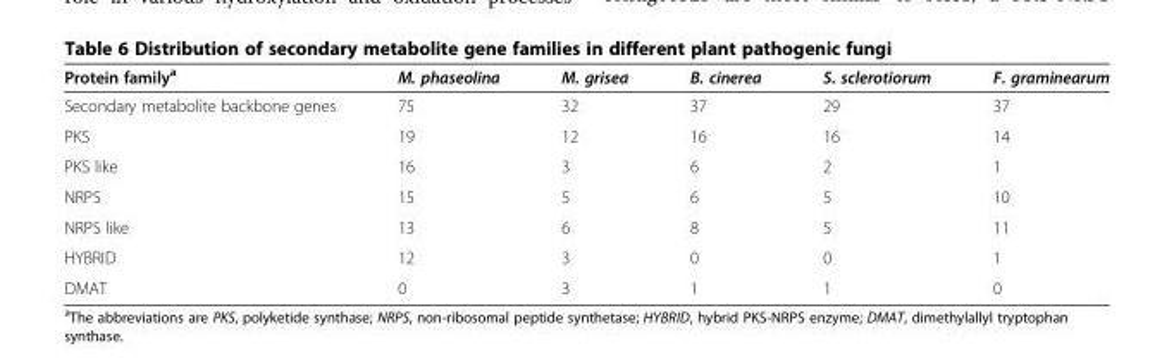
<table><thead><tr><td>Protein family<sup>a</sup></td><td>M. phaseolina</td><td>M. grisea</td><td>B. cinerea</td><td>S. sclerotiorum</td><td>F. graminearum</td></tr></thead><tbody><tr><td>Secondary metabolite backbone genes</td><td>75</td><td>32</td><td>37</td><td>29</td><td>37</td></tr><tr><td>PKS</td><td>19</td><td>12</td><td>16</td><td>16</td><td>14</td></tr><tr><td>PKS like</td><td>16</td><td>3</td><td>6</td><td>2</td><td>1</td></tr><tr><td>NRPS</td><td>15</td><td>5</td><td>6</td><td>5</td><td>10</td></tr><tr><td>NRPS like</td><td>13</td><td>6</td><td>8</td><td>5</td><td>11</td></tr><tr><td>HYBRID</td><td>12</td><td>3</td><td>0</td><td>0</td><td>1</td></tr><tr><td>DMAT</td><td>0</td><td>3</td><td>1</td><td>1</td><td>0</td></tr></tbody></table>